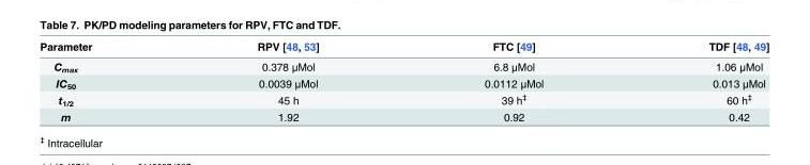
<table><thead><tr><td>Parameter</td><td>RPV [48, 53]</td><td>FTC [49]</td><td>TDF [48, 49]</td></tr></thead><tbody><tr><td>C<sub>max</sub></td><td>0.378 μMol</td><td>6.8 μMol</td><td>1.06 μMol</td></tr><tr><td>IC<sub>50</sub></td><td>0.0039 μMol</td><td>0.0112 μMol</td><td>0.013 μMol</td></tr><tr><td>t<sub>1/2</sub></td><td>45 h</td><td>39 h<sup>‡</sup></td><td>60 h<sup>‡</sup></td></tr><tr><td>m</td><td>1.92</td><td>0.92</td><td>0.42</td></tr></tbody></table>